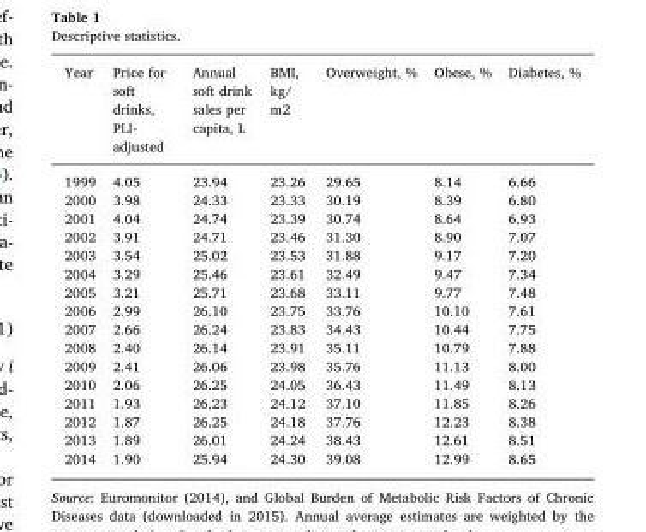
<table><thead><tr><td>Year</td><td>Price for soft drinks, PLI- adjusted</td><td>Annual soft drink sales per capita, L</td><td>BMI, kg/ m2</td><td>Overweight, %</td><td>Obese, %</td><td>Diabetes, %</td></tr></thead><tbody><tr><td>1999</td><td>4.05</td><td>23.94</td><td>23.26</td><td>29.65</td><td>8.14</td><td>6.66</td></tr><tr><td>2000</td><td>3.98</td><td>24.33</td><td>23.33</td><td>30.19</td><td>8.39</td><td>6.80</td></tr><tr><td>2001</td><td>4.04</td><td>24.74</td><td>23.39</td><td>30.74</td><td>8.64</td><td>6.93</td></tr><tr><td>2002</td><td>3.91</td><td>24.71</td><td>23.46</td><td>31.30</td><td>8.90</td><td>7.07</td></tr><tr><td>2003</td><td>3.54</td><td>25.02</td><td>23.53</td><td>31.88</td><td>9.17</td><td>7.20</td></tr><tr><td>2004</td><td>3.29</td><td>25.46</td><td>23.61</td><td>32.49</td><td>9.47</td><td>7.34</td></tr><tr><td>2005</td><td>3.21</td><td>25.71</td><td>23.68</td><td>33.11</td><td>9.77</td><td>7.48</td></tr><tr><td>2006</td><td>2.99</td><td>26.10</td><td>23.75</td><td>33.76</td><td>10.10</td><td>7.61</td></tr><tr><td>2007</td><td>2.66</td><td>26.24</td><td>23.83</td><td>34.43</td><td>10.44</td><td>7.75</td></tr><tr><td>2008</td><td>2.40</td><td>26.14</td><td>23.91</td><td>35.11</td><td>10.79</td><td>7.88</td></tr><tr><td>2009</td><td>2.41</td><td>26.06</td><td>23.98</td><td>35.76</td><td>11.13</td><td>8.00</td></tr><tr><td>2010</td><td>2.06</td><td>26.25</td><td>24.05</td><td>36.43</td><td>11.49</td><td>8.13</td></tr><tr><td>2011</td><td>1.93</td><td>26.23</td><td>24.12</td><td>37.10</td><td>11.85</td><td>8.26</td></tr><tr><td>2012</td><td>1.87</td><td>26.25</td><td>24.18</td><td>37.76</td><td>12.23</td><td>8.38</td></tr><tr><td>2013</td><td>1.89</td><td>26.01</td><td>24.24</td><td>38.43</td><td>12.61</td><td>8.51</td></tr><tr><td>2014</td><td>1.90</td><td>25.94</td><td>24.30</td><td>39.08</td><td>12.99</td><td>8.65</td></tr></tbody></table>